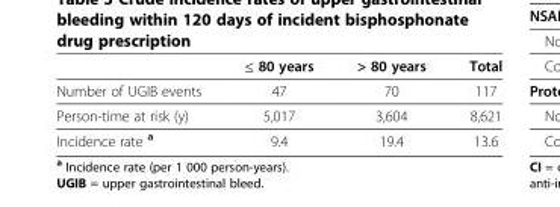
<table><thead><tr><td></td><td>≤ 80 years</td><td>&gt; 80 years</td><td>Total</td></tr></thead><tbody><tr><td>Number of UGIB events</td><td>47</td><td>70</td><td>117</td></tr><tr><td>Person-time at risk (y)</td><td>5,017</td><td>3,604</td><td>8,621</td></tr><tr><td>Incidence rate <sup>a</sup></td><td>9.4</td><td>19.4</td><td>13.6</td></tr></tbody></table>